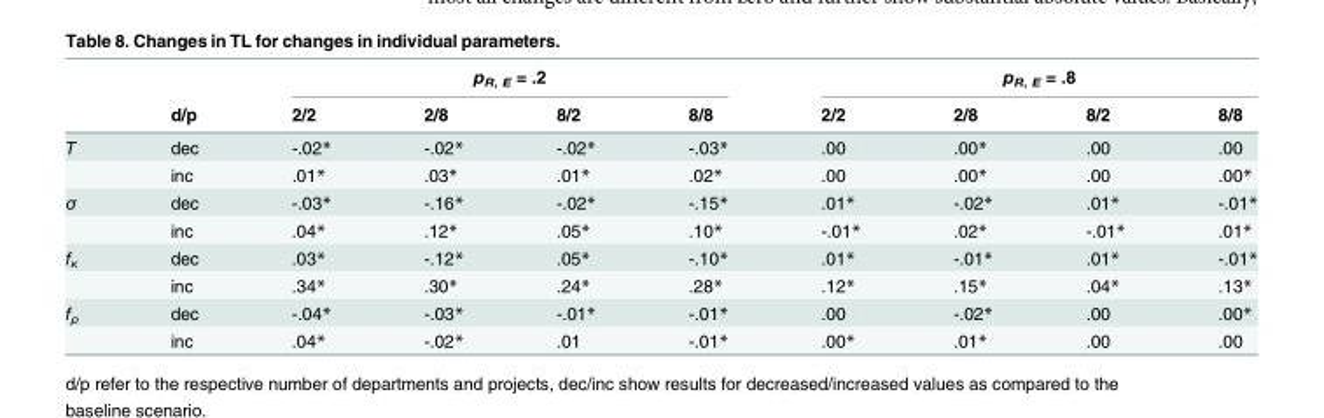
<table><thead><tr><td rowspan="2"></td><td rowspan="2">d/p</td><td colspan="4">p<sub>R, E</sub> = .2</td><td colspan="4">p<sub>R, E</sub> = .8</td></tr><tr><td>2/2</td><td>2/8</td><td>8/2</td><td>8/8</td><td>2/2</td><td>2/8</td><td>8/2</td><td>8/8</td></tr></thead><tbody><tr><td rowspan="2">T</td><td>dec</td><td>-.02*</td><td>-.02*</td><td>-.02*</td><td>-.03*</td><td>.00</td><td>.00*</td><td>.00</td><td>.00</td></tr><tr><td>inc</td><td>.01*</td><td>.03*</td><td>.01*</td><td>.02*</td><td>.00</td><td>.00*</td><td>.00</td><td>.00*</td></tr><tr><td rowspan="2">σ</td><td>dec</td><td>-.03*</td><td>-.16*</td><td>-.02*</td><td>-.15*</td><td>.01*</td><td>-.02*</td><td>.01*</td><td>-.01*</td></tr><tr><td>inc</td><td>.04*</td><td>.12*</td><td>.05*</td><td>.10*</td><td>-.01*</td><td>.02*</td><td>-.01*</td><td>.01*</td></tr><tr><td rowspan="2">f<sub>κ</sub></td><td>dec</td><td>.03*</td><td>-.12*</td><td>.05*</td><td>-.10*</td><td>.01*</td><td>-.01*</td><td>.01*</td><td>-.01*</td></tr><tr><td>inc</td><td>.34*</td><td>.30*</td><td>.24*</td><td>.28*</td><td>.12*</td><td>.15*</td><td>.04*</td><td>.13*</td></tr><tr><td rowspan="2">f<sub>ρ</sub></td><td>dec</td><td>-.04*</td><td>-.03*</td><td>-.01*</td><td>-.01*</td><td>.00</td><td>-.02*</td><td>.00</td><td>.00*</td></tr><tr><td>inc</td><td>.04*</td><td>-.02*</td><td>.01</td><td>-.01*</td><td>.00*</td><td>.01*</td><td>.00</td><td>.00</td></tr></tbody></table>